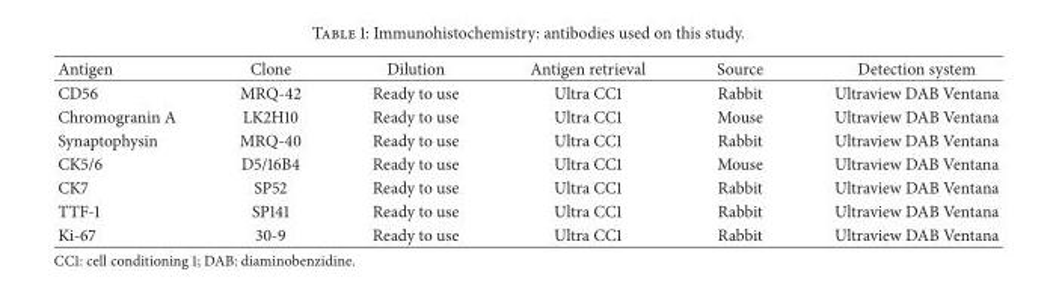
<table><thead><tr><td>Antigen</td><td>Clone</td><td>Dilution</td><td>Antigen retrieval</td><td>Source</td><td>Detection system</td></tr></thead><tbody><tr><td>CD56</td><td>MRQ-42</td><td>Ready to use</td><td>Ultra CC1</td><td>Rabbit</td><td>Ultraview DAB Ventana</td></tr><tr><td>Chromogranin A</td><td>LK2H10</td><td>Ready to use</td><td>Ultra CC1</td><td>Mouse</td><td>Ultraview DAB Ventana</td></tr><tr><td>Synaptophysin</td><td>MRQ-40</td><td>Ready to use</td><td>Ultra CC1</td><td>Rabbit</td><td>Ultraview DAB Ventana</td></tr><tr><td>CK5/6</td><td>D5/16B4</td><td>Ready to use</td><td>Ultra CC1</td><td>Mouse</td><td>Ultraview DAB Ventana</td></tr><tr><td>CK7</td><td>SP52</td><td>Ready to use</td><td>Ultra CC1</td><td>Rabbit</td><td>Ultraview DAB Ventana</td></tr><tr><td>TTF-1</td><td>SP141</td><td>Ready to use</td><td>Ultra CC1</td><td>Rabbit</td><td>Ultraview DAB Ventana</td></tr><tr><td>Ki-67</td><td>30-9</td><td>Ready to use</td><td>Ultra CC1</td><td>Rabbit</td><td>Ultraview DAB Ventana</td></tr></tbody></table>